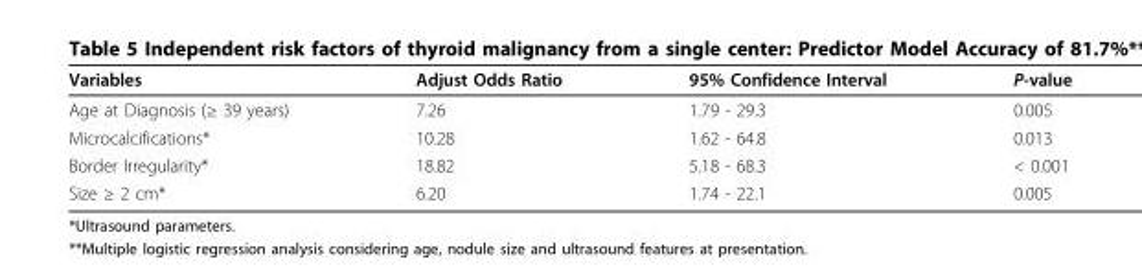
<table><thead><tr><td>Variables</td><td>Adjust Odds Ratio</td><td>95% Confidence Interval</td><td>P-value</td></tr></thead><tbody><tr><td>Age at Diagnosis (≥ 39 years)</td><td>7.26</td><td>1.79 - 29.3</td><td>0.005</td></tr><tr><td>Microcalcifications*</td><td>10.28</td><td>1.62 - 64.8</td><td>0.013</td></tr><tr><td>Border Irregularity*</td><td>18.82</td><td>5.18 - 68.3</td><td>&lt; 0.001</td></tr><tr><td>Size ≥ 2 cm*</td><td>6.20</td><td>1.74 - 22.1</td><td>0.005</td></tr></tbody></table>